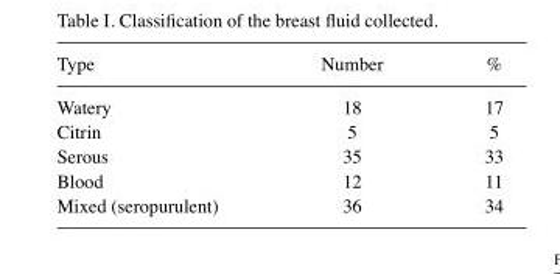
<table><thead><tr><td>Type</td><td>Number</td><td>%</td></tr></thead><tbody><tr><td>Watery</td><td>18</td><td>17</td></tr><tr><td>Citrin</td><td>5</td><td>5</td></tr><tr><td>Serous</td><td>35</td><td>33</td></tr><tr><td>Blood</td><td>12</td><td>11</td></tr><tr><td>Mixed (seropurulent)</td><td>36</td><td>34</td></tr></tbody></table>